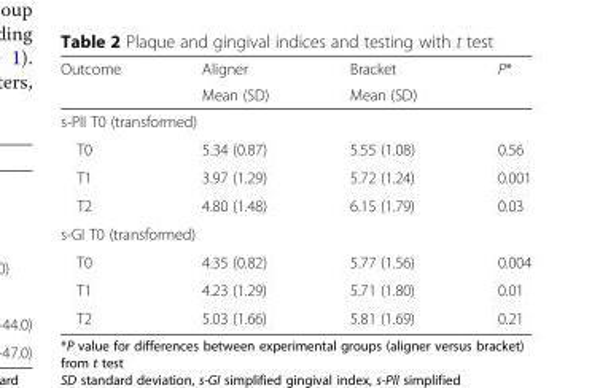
<table><thead><tr><td rowspan="2">Outcome</td><td rowspan="2">Aligner Mean (SD)</td><td rowspan="2">Bracket Mean (SD)</td><td rowspan="2">P*</td></tr><tr></tr></thead><tbody><tr><td colspan="4">s-PlI T0 (transformed)</td></tr><tr><td>T0</td><td>5.34 (0.87)</td><td>5.55 (1.08)</td><td>0.56</td></tr><tr><td>T1</td><td>3.97 (1.29)</td><td>5.72 (1.24)</td><td>0.001</td></tr><tr><td>T2</td><td>4.80 (1.48)</td><td>6.15 (1.79)</td><td>0.03</td></tr><tr><td colspan="4">s-GI T0 (transformed)</td></tr><tr><td>T0</td><td>4.35 (0.82)</td><td>5.77 (1.56)</td><td>0.004</td></tr><tr><td>T1</td><td>4.23 (1.29)</td><td>5.71 (1.80)</td><td>0.01</td></tr><tr><td>T2</td><td>5.03 (1.66)</td><td>5.81 (1.69)</td><td>0.21</td></tr></tbody></table>